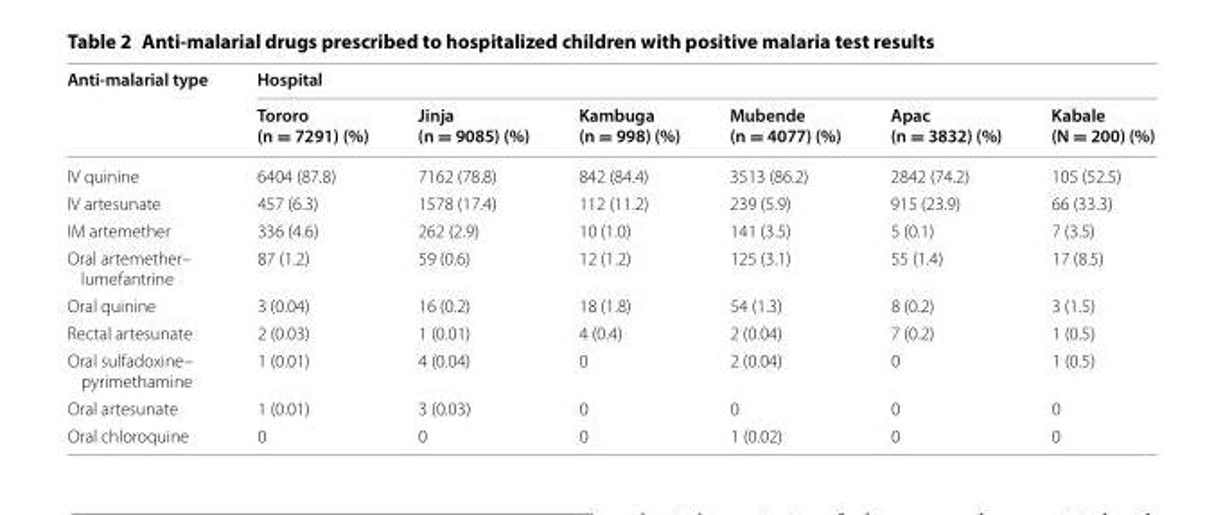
<table><thead><tr><td rowspan="2">Anti‑malarial type</td><td colspan="6">Hospital</td></tr><tr><td>Tororo (n = 7291) (%)</td><td>Jinja (n = 9085) (%)</td><td>Kambuga (n = 998) (%)</td><td>Mubende (n = 4077) (%)</td><td>Apac (n = 3832) (%)</td><td>Kabale (N = 200) (%)</td></tr></thead><tbody><tr><td>IV quinine</td><td>6404 (87.8)</td><td>7162 (78.8)</td><td>842 (84.4)</td><td>3513 (86.2)</td><td>2842 (74.2)</td><td>105 (52.5)</td></tr><tr><td>IV artesunate</td><td>457 (6.3)</td><td>1578 (17.4)</td><td>112 (11.2)</td><td>239 (5.9)</td><td>915 (23.9)</td><td>66 (33.3)</td></tr><tr><td>IM artemether</td><td>336 (4.6)</td><td>262 (2.9)</td><td>10 (1.0)</td><td>141 (3.5)</td><td>5 (0.1)</td><td>7 (3.5)</td></tr><tr><td>Oral artemether– lumefantrine</td><td>87 (1.2)</td><td>59 (0.6)</td><td>12 (1.2)</td><td>125 (3.1)</td><td>55 (1.4)</td><td>17 (8.5)</td></tr><tr><td>Oral quinine</td><td>3 (0.04)</td><td>16 (0.2)</td><td>18 (1.8)</td><td>54 (1.3)</td><td>8 (0.2)</td><td>3 (1.5)</td></tr><tr><td>Rectal artesunate</td><td>2 (0.03)</td><td>1 (0.01)</td><td>4 (0.4)</td><td>2 (0.04)</td><td>7 (0.2)</td><td>1 (0.5)</td></tr><tr><td>Oral sulfadoxine– pyrimethamine</td><td>1 (0.01)</td><td>4 (0.04)</td><td>0</td><td>2 (0.04)</td><td>0</td><td>1 (0.5)</td></tr><tr><td>Oral artesunate</td><td>1 (0.01)</td><td>3 (0.03)</td><td>0</td><td>0</td><td>0</td><td>0</td></tr><tr><td>Oral chloroquine</td><td>0</td><td>0</td><td>0</td><td>1 (0.02)</td><td>0</td><td>0</td></tr></tbody></table>